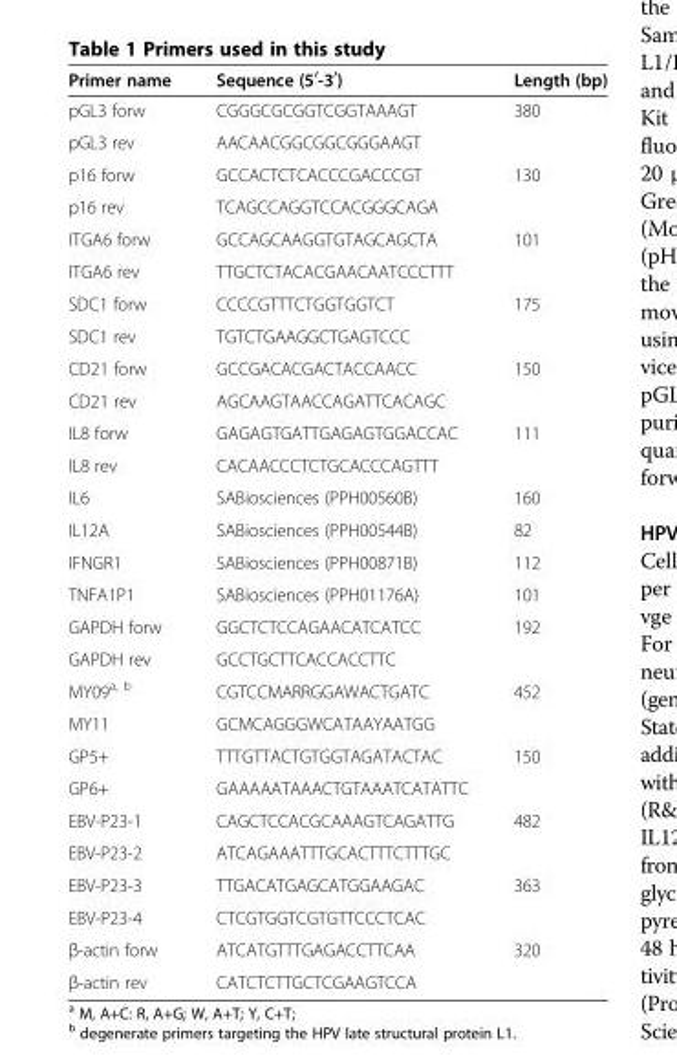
<table><thead><tr><td>Primer name</td><td>Sequence (5<sup>′</sup>-3<sup>′</sup>)</td><td>Length (bp)</td></tr></thead><tbody><tr><td>pGL3 forw</td><td>CGGGCGCGGTCGGTAAAGT</td><td>380</td></tr><tr><td>pGL3 rev</td><td>AACAACGGCGGCGGGAAGT</td><td></td></tr><tr><td>p16 forw</td><td>GCCACTCTCACCCGACCCGT</td><td>130</td></tr><tr><td>p16 rev</td><td>TCAGCCAGGTCCACGGGCAGA</td><td></td></tr><tr><td>ITGA6 forw</td><td>GCCAGCAAGGTGTAGCAGCTA</td><td>101</td></tr><tr><td>ITGA6 rev</td><td>TTGCTCTACACGAACAATCCCTTT</td><td></td></tr><tr><td>SDC1 forw</td><td>CCCCGTTTCTGGTGGTCT</td><td>175</td></tr><tr><td>SDC1 rev</td><td>TGTCTGAAGGCTGAGTCCC</td><td></td></tr><tr><td>CD21 forw</td><td>GCCGACACGACTACCAACC</td><td>150</td></tr><tr><td>CD21 rev</td><td>AGCAAGTAACCAGATTCACAGC</td><td></td></tr><tr><td>IL8 forw</td><td>GAGAGTGATTGAGAGTGGACCAC</td><td>111</td></tr><tr><td>IL8 rev</td><td>CACAACCCTCTGCACCCAGTTT</td><td></td></tr><tr><td>IL6</td><td>SABiosciences (PPH00560B)</td><td>160</td></tr><tr><td>IL12A</td><td>SABiosciences (PPH00544B)</td><td>82</td></tr><tr><td>IFNGR1</td><td>SABiosciences (PPH00871B)</td><td>112</td></tr><tr><td>TNFA1P1</td><td>SABiosciences (PPH01176A)</td><td>101</td></tr><tr><td>GAPDH forw</td><td>GGCTCTCCAGAACATCATCC</td><td>192</td></tr><tr><td>GAPDH rev</td><td>GCCTGCTTCACCACCTTC</td><td></td></tr><tr><td>MY09<sup>a, b</sup></td><td>CGTCCMARRGGAWACTGATC</td><td>452</td></tr><tr><td>MY11</td><td>GCMCAGGGWCATAAYAATGG</td><td></td></tr><tr><td>GP5+</td><td>TTTGTTACTGTGGTAGATACTAC</td><td>150</td></tr><tr><td>GP6+</td><td>GAAAAATAAACTGTAAATCATATTC</td><td></td></tr><tr><td>EBV-P23-1</td><td>CAGCTCCACGCAAAGTCAGATTG</td><td>482</td></tr><tr><td>EBV-P23-2</td><td>ATCAGAAATTTGCACTTTCTTTGC</td><td></td></tr><tr><td>EBV-P23-3</td><td>TTGACATGAGCATGGAAGAC</td><td>363</td></tr><tr><td>EBV-P23-4</td><td>CTCGTGGTCGTGTTCCCTCAC</td><td></td></tr><tr><td>β-actin forw</td><td>ATCATGTTTGAGACCTTCAA</td><td>320</td></tr><tr><td>β-actin rev</td><td>CATCTCTTGCTCGAAGTCCA</td><td></td></tr></tbody></table>